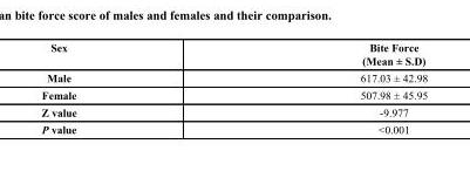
<table><thead><tr><td>Sex</td><td>Bite Force (Mean ± S.D)</td></tr></thead><tbody><tr><td>Male</td><td>617.03 ± 42.98</td></tr><tr><td>Female</td><td>507.98 ± 45.95</td></tr><tr><td>Z value</td><td>-9.977</td></tr><tr><td>P value</td><td>&lt;0.001</td></tr></tbody></table>